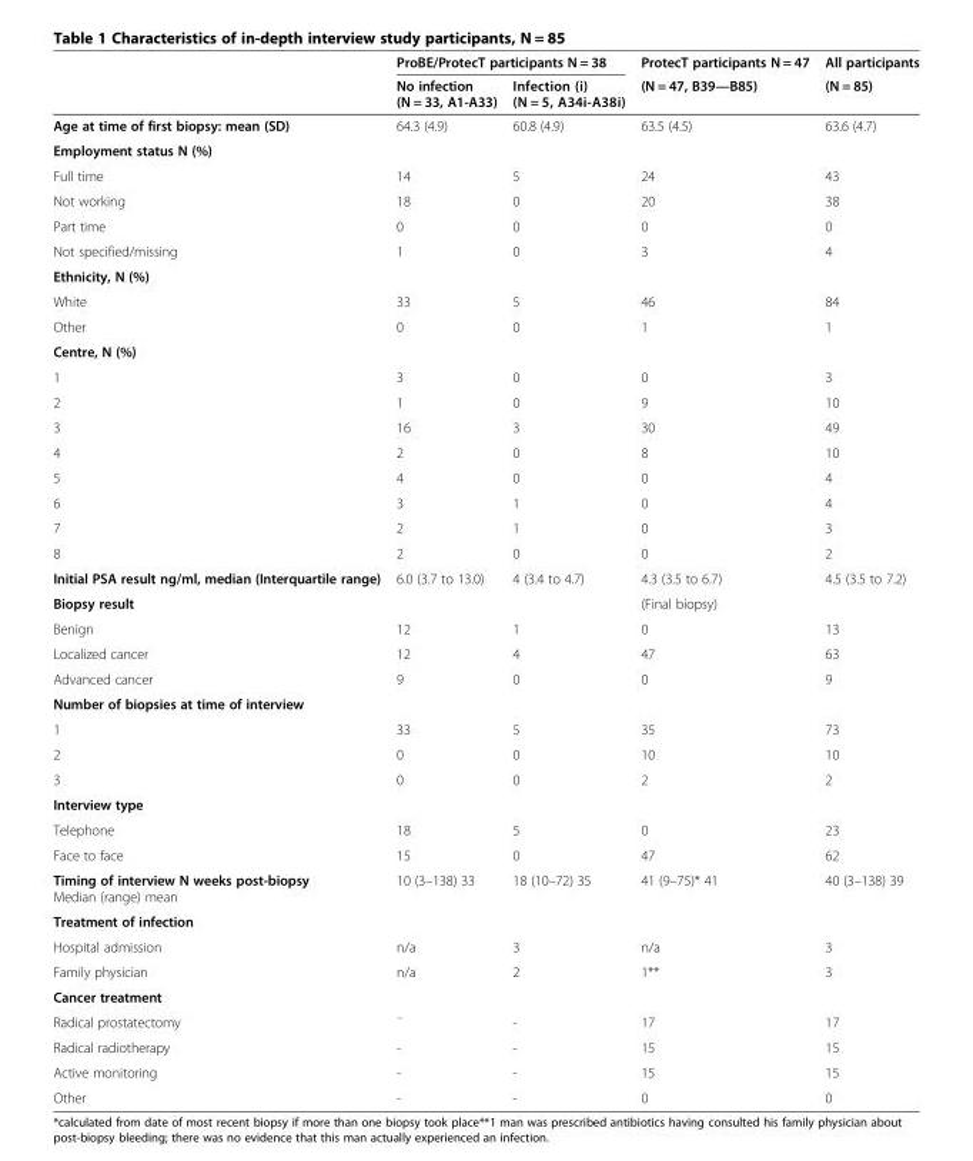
<table><thead><tr><td rowspan="2"></td><td colspan="2">ProBE/ProtecT participants N = 38</td><td rowspan="2">ProtecT participants N = 47 (N = 47, B39—B85)</td><td rowspan="2">All participants (N = 85)</td></tr><tr><td>No infection (N = 33, A1-A33)</td><td>Infection (i) (N = 5, A34i-A38i)</td></tr></thead><tbody><tr><td>Age at time of first biopsy: mean (SD)</td><td>64.3 (4.9)</td><td>60.8 (4.9)</td><td>63.5 (4.5)</td><td>63.6 (4.7)</td></tr><tr><td colspan="5">Employment status N (%)</td></tr><tr><td>Full time</td><td>14</td><td>5</td><td>24</td><td>43</td></tr><tr><td>Not working</td><td>18</td><td>0</td><td>20</td><td>38</td></tr><tr><td>Part time</td><td>0</td><td>0</td><td>0</td><td>0</td></tr><tr><td>Not specified/missing</td><td>1</td><td>0</td><td>3</td><td>4</td></tr><tr><td colspan="5">Ethnicity, N (%)</td></tr><tr><td>White</td><td>33</td><td>5</td><td>46</td><td>84</td></tr><tr><td>Other</td><td>0</td><td>0</td><td>1</td><td>1</td></tr><tr><td colspan="5">Centre, N (%)</td></tr><tr><td>1</td><td>3</td><td>0</td><td>0</td><td>3</td></tr><tr><td>2</td><td>1</td><td>0</td><td>9</td><td>10</td></tr><tr><td>3</td><td>16</td><td>3</td><td>30</td><td>49</td></tr><tr><td>4</td><td>2</td><td>0</td><td>8</td><td>10</td></tr><tr><td>5</td><td>4</td><td>0</td><td>0</td><td>4</td></tr><tr><td>6</td><td>3</td><td>1</td><td>0</td><td>4</td></tr><tr><td>7</td><td>2</td><td>1</td><td>0</td><td>3</td></tr><tr><td>8</td><td>2</td><td>0</td><td>0</td><td>2</td></tr><tr><td>Initial PSA result ng/ml, median (Interquartile range)</td><td>6.0 (3.7 to 13.0)</td><td>4 (3.4 to 4.7)</td><td>4.3 (3.5 to 6.7)</td><td>4.5 (3.5 to 7.2)</td></tr><tr><td>Biopsy result</td><td></td><td></td><td>(Final biopsy)</td><td></td></tr><tr><td>Benign</td><td>12</td><td>1</td><td>0</td><td>13</td></tr><tr><td>Localized cancer</td><td>12</td><td>4</td><td>47</td><td>63</td></tr><tr><td>Advanced cancer</td><td>9</td><td>0</td><td>0</td><td>9</td></tr><tr><td colspan="5">Number of biopsies at time of interview</td></tr><tr><td>1</td><td>33</td><td>5</td><td>35</td><td>73</td></tr><tr><td>2</td><td>0</td><td>0</td><td>10</td><td>10</td></tr><tr><td>3</td><td>0</td><td>0</td><td>2</td><td>2</td></tr><tr><td colspan="5">Interview type</td></tr><tr><td>Telephone</td><td>18</td><td>5</td><td>0</td><td>23</td></tr><tr><td>Face to face</td><td>15</td><td>0</td><td>47</td><td>62</td></tr><tr><td>Timing of interview N weeks post-biopsy Median (range) mean</td><td>10 (3–138) 33</td><td>18 (10–72) 35</td><td>41 (9–75)* 41</td><td>40 (3–138) 39</td></tr><tr><td colspan="5">Treatment of infection</td></tr><tr><td>Hospital admission</td><td>n/a</td><td>3</td><td>n/a</td><td>3</td></tr><tr><td>Family physician</td><td>n/a</td><td>2</td><td>1**</td><td>3</td></tr><tr><td colspan="5">Cancer treatment</td></tr><tr><td>Radical prostatectomy</td><td><sup>−</sup></td><td>-</td><td>17</td><td>17</td></tr><tr><td>Radical radiotherapy</td><td>-</td><td>-</td><td>15</td><td>15</td></tr><tr><td>Active monitoring</td><td>-</td><td>-</td><td>15</td><td>15</td></tr><tr><td>Other</td><td>-</td><td>-</td><td>0</td><td>0</td></tr></tbody></table>